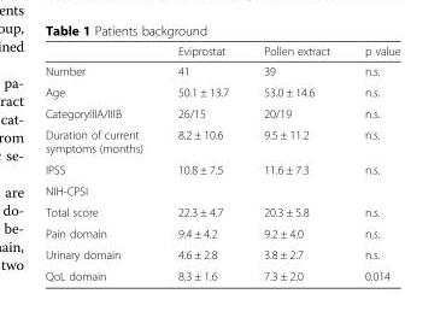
<table><thead><tr><td></td><td>Eviprostat</td><td>Pollen extract</td><td>p value</td></tr></thead><tbody><tr><td>Number</td><td>41</td><td>39</td><td>n.s.</td></tr><tr><td>Age</td><td>50.1 ± 13.7</td><td>53.0 ± 14.6</td><td>n.s.</td></tr><tr><td>CategoryIIIA/IIIB</td><td>26/15</td><td>20/19</td><td>n.s.</td></tr><tr><td>Duration of current symptoms (months)</td><td>8.2 ± 10.6</td><td>9.5 ± 11.2</td><td>n.s.</td></tr><tr><td>IPSS</td><td>10.8 ± 7.5</td><td>11.6 ± 7.3</td><td>n.s.</td></tr><tr><td colspan="4">NIH-CPSI</td></tr><tr><td>Total score</td><td>22.3 ± 4.7</td><td>20.3 ± 5.8</td><td>n.s.</td></tr><tr><td>Pain domain</td><td>9.4 ± 4.2</td><td>9.2 ± 4.0</td><td>n.s.</td></tr><tr><td>Urinary domain</td><td>4.6 ± 2.8</td><td>3.8 ± 2.7</td><td>n.s.</td></tr><tr><td>QoL domain</td><td>8.3 ± 1.6</td><td>7.3 ± 2.0</td><td>0.014</td></tr></tbody></table>